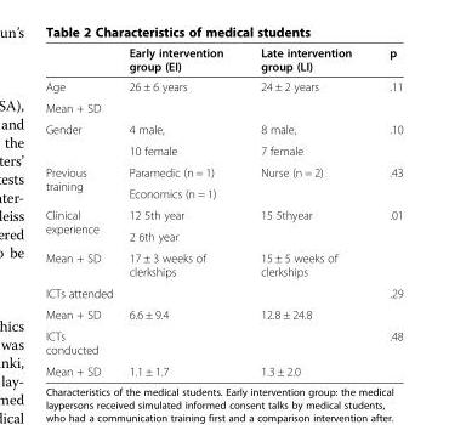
<table><thead><tr><td></td><td>Early intervention group (EI)</td><td>Late intervention group (LI)</td><td>p</td></tr></thead><tbody><tr><td>Age</td><td rowspan="2">26 ± 6 years</td><td rowspan="2">24 ± 2 years</td><td rowspan="2">.11</td></tr><tr><td>Mean + SD</td></tr><tr><td rowspan="2">Gender</td><td>4 male,</td><td>8 male,</td><td rowspan="2">.10</td></tr><tr><td>10 female</td><td>7 female</td></tr><tr><td rowspan="2">Previous training</td><td>Paramedic (n = 1)</td><td rowspan="2">Nurse (n = 2)</td><td rowspan="2">.43</td></tr><tr><td>Economics (n = 1)</td></tr><tr><td rowspan="2">Clinical experience</td><td>12 5th year</td><td rowspan="2">15 5thyear</td><td rowspan="3">.01</td></tr><tr><td>2 6th year</td></tr><tr><td>Mean + SD</td><td>17 ± 3 weeks of clerkships</td><td>15 ± 5 weeks of clerkships</td></tr><tr><td colspan="3">ICTs attended</td><td rowspan="2">.29</td></tr><tr><td>Mean + SD</td><td>6.6 ± 9.4</td><td>12.8 ± 24.8</td></tr><tr><td colspan="3">ICTs conducted</td><td rowspan="2">.48</td></tr><tr><td>Mean + SD</td><td>1.1 ± 1.7</td><td>1.3 ± 2.0</td></tr></tbody></table>